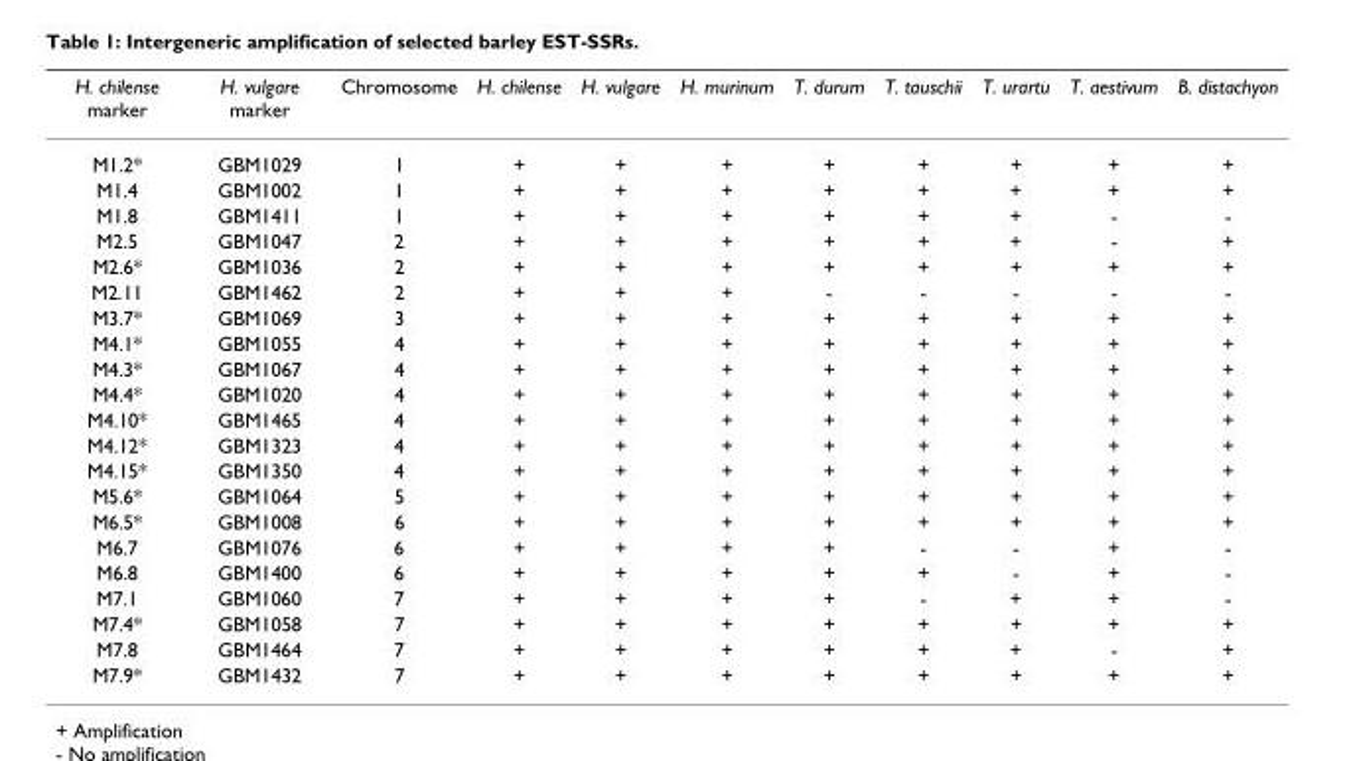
<table><thead><tr><td>H. chilense marker</td><td>H. vulgare marker</td><td>Chromosome</td><td>H. chilense</td><td>H. vulgare</td><td>H. murinum</td><td>T. durum</td><td>T. tauschii</td><td>T. urartu</td><td>T. aestivum</td><td>B. distachyon</td></tr></thead><tbody><tr><td>M1.2*</td><td>GBM1029</td><td>1</td><td>+</td><td>+</td><td>+</td><td>+</td><td>+</td><td>+</td><td>+</td><td>+</td></tr><tr><td>M1.4</td><td>GBM1002</td><td>1</td><td>+</td><td>+</td><td>+</td><td>+</td><td>+</td><td>+</td><td>+</td><td>+</td></tr><tr><td>M1.8</td><td>GBM1411</td><td>1</td><td>+</td><td>+</td><td>+</td><td>+</td><td>+</td><td>+</td><td>-</td><td>-</td></tr><tr><td>M2.5</td><td>GBM1047</td><td>2</td><td>+</td><td>+</td><td>+</td><td>+</td><td>+</td><td>+</td><td>-</td><td>+</td></tr><tr><td>M2.6*</td><td>GBM1036</td><td>2</td><td>+</td><td>+</td><td>+</td><td>+</td><td>+</td><td>+</td><td>+</td><td>+</td></tr><tr><td>M2.11</td><td>GBM1462</td><td>2</td><td>+</td><td>+</td><td>+</td><td>-</td><td>-</td><td>-</td><td>-</td><td>-</td></tr><tr><td>M3.7*</td><td>GBM1069</td><td>3</td><td>+</td><td>+</td><td>+</td><td>+</td><td>+</td><td>+</td><td>+</td><td>+</td></tr><tr><td>M4.1*</td><td>GBM1055</td><td>4</td><td>+</td><td>+</td><td>+</td><td>+</td><td>+</td><td>+</td><td>+</td><td>+</td></tr><tr><td>M4.3*</td><td>GBM1067</td><td>4</td><td>+</td><td>+</td><td>+</td><td>+</td><td>+</td><td>+</td><td>+</td><td>+</td></tr><tr><td>M4.4*</td><td>GBM1020</td><td>4</td><td>+</td><td>+</td><td>+</td><td>+</td><td>+</td><td>+</td><td>+</td><td>+</td></tr><tr><td>M4.10*</td><td>GBM1465</td><td>4</td><td>+</td><td>+</td><td>+</td><td>+</td><td>+</td><td>+</td><td>+</td><td>+</td></tr><tr><td>M4.12*</td><td>GBM1323</td><td>4</td><td>+</td><td>+</td><td>+</td><td>+</td><td>+</td><td>+</td><td>+</td><td>+</td></tr><tr><td>M4.15*</td><td>GBM1350</td><td>4</td><td>+</td><td>+</td><td>+</td><td>+</td><td>+</td><td>+</td><td>+</td><td>+</td></tr><tr><td>M5.6*</td><td>GBM1064</td><td>5</td><td>+</td><td>+</td><td>+</td><td>+</td><td>+</td><td>+</td><td>+</td><td>+</td></tr><tr><td>M6.5*</td><td>GBM1008</td><td>6</td><td>+</td><td>+</td><td>+</td><td>+</td><td>+</td><td>+</td><td>+</td><td>+</td></tr><tr><td>M6.7</td><td>GBM1076</td><td>6</td><td>+</td><td>+</td><td>+</td><td>+</td><td>-</td><td>-</td><td>+</td><td>-</td></tr><tr><td>M6.8</td><td>GBM1400</td><td>6</td><td>+</td><td>+</td><td>+</td><td>+</td><td>+</td><td>-</td><td>+</td><td>-</td></tr><tr><td>M7.1</td><td>GBM1060</td><td>7</td><td>+</td><td>+</td><td>+</td><td>+</td><td>-</td><td>+</td><td>+</td><td>-</td></tr><tr><td>M7.4*</td><td>GBM1058</td><td>7</td><td>+</td><td>+</td><td>+</td><td>+</td><td>+</td><td>+</td><td>+</td><td>+</td></tr><tr><td>M7.8</td><td>GBM1464</td><td>7</td><td>+</td><td>+</td><td>+</td><td>+</td><td>+</td><td>+</td><td>-</td><td>+</td></tr><tr><td>M7.9*</td><td>GBM1432</td><td>7</td><td>+</td><td>+</td><td>+</td><td>+</td><td>+</td><td>+</td><td>+</td><td>+</td></tr></tbody></table>